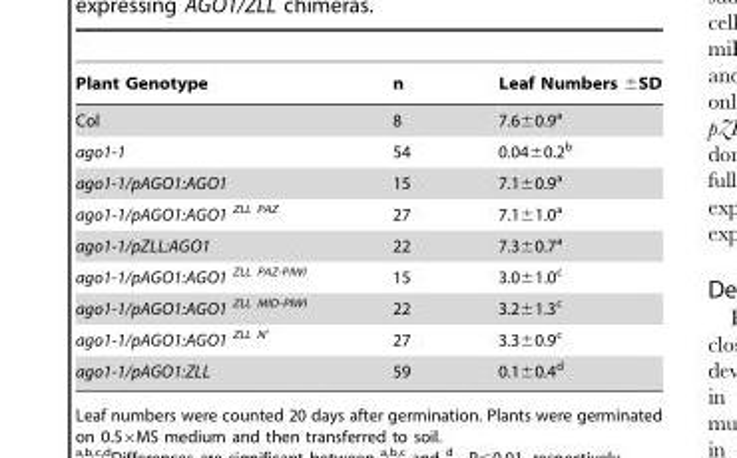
<table><thead><tr><td>Plant Genotype</td><td>n</td><td>Leaf Numbers ±SD</td></tr></thead><tbody><tr><td>Col</td><td>8</td><td>7.6±0.9<sup>a</sup></td></tr><tr><td>ago1-1</td><td>54</td><td>0.04±0.2<sup>b</sup></td></tr><tr><td>ago1-1/pAGO1:AGO1</td><td>15</td><td>7.1±0.9<sup>a</sup></td></tr><tr><td>ago1-1/pAGO1:AGO1 <sup>ZLL PAZ</sup></td><td>27</td><td>7.1±1.0<sup>a</sup></td></tr><tr><td>ago1-1/pZLL:AGO1</td><td>22</td><td>7.3±0.7<sup>a</sup></td></tr><tr><td>ago1-1/pAGO1:AGO1 <sup>ZLL PAZ-PIWI</sup></td><td>15</td><td>3.0±1.0<sup>c</sup></td></tr><tr><td>ago1-1/pAGO1:AGO1 <sup>ZLL MID-PIWI</sup></td><td>22</td><td>3.2±1.3<sup>c</sup></td></tr><tr><td>ago1-1/pAGO1:AGO1 <sup>ZLL N′</sup></td><td>27</td><td>3.3±0.9<sup>c</sup></td></tr><tr><td>ago1-1/pAGO1:ZLL</td><td>59</td><td>0.1±0.4<sup>d</sup></td></tr></tbody></table>